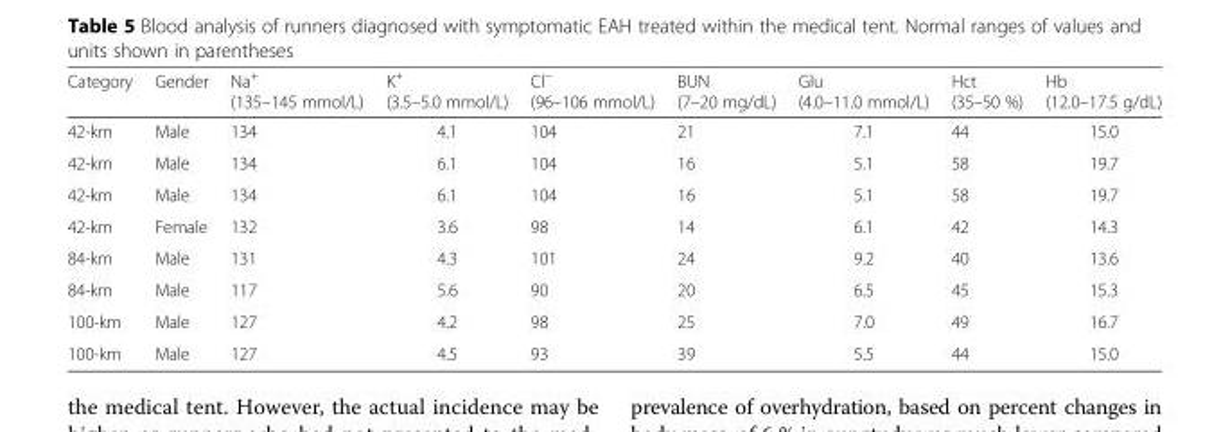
<table><thead><tr><td>Category</td><td>Gender</td><td>Na+ (135–145 mmol/L)</td><td>K+ (3.5–5.0 mmol/L)</td><td>Cl− (96–106 mmol/L)</td><td>BUN (7–20 mg/dL)</td><td>Glu (4.0–11.0 mmol/L)</td><td>Hct (35–50 %)</td><td>Hb (12.0–17.5 g/dL)</td></tr></thead><tbody><tr><td>42-km</td><td>Male</td><td>134</td><td>4.1</td><td>104</td><td>21</td><td>7.1</td><td>44</td><td>15.0</td></tr><tr><td>42-km</td><td>Male</td><td>134</td><td>6.1</td><td>104</td><td>16</td><td>5.1</td><td>58</td><td>19.7</td></tr><tr><td>42-km</td><td>Male</td><td>134</td><td>6.1</td><td>104</td><td>16</td><td>5.1</td><td>58</td><td>19.7</td></tr><tr><td>42-km</td><td>Female</td><td>132</td><td>3.6</td><td>98</td><td>14</td><td>6.1</td><td>42</td><td>14.3</td></tr><tr><td>84-km</td><td>Male</td><td>131</td><td>4.3</td><td>101</td><td>24</td><td>9.2</td><td>40</td><td>13.6</td></tr><tr><td>84-km</td><td>Male</td><td>117</td><td>5.6</td><td>90</td><td>20</td><td>6.5</td><td>45</td><td>15.3</td></tr><tr><td>100-km</td><td>Male</td><td>127</td><td>4.2</td><td>98</td><td>25</td><td>7.0</td><td>49</td><td>16.7</td></tr><tr><td>100-km</td><td>Male</td><td>127</td><td>4.5</td><td>93</td><td>39</td><td>5.5</td><td>44</td><td>15.0</td></tr></tbody></table>